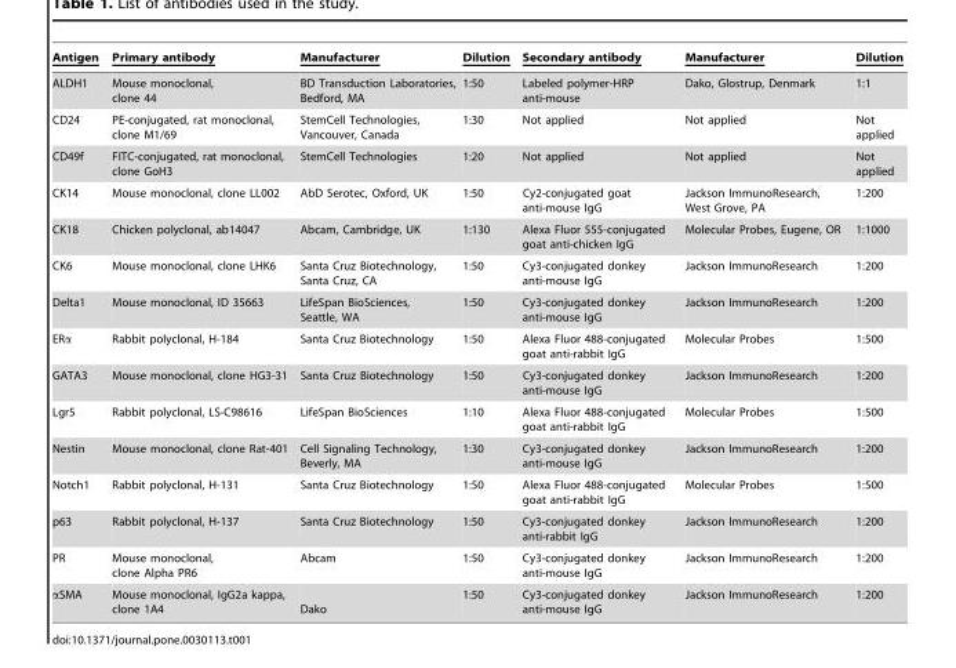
<table><thead><tr><td>Antigen</td><td>Primary antibody</td><td>Manufacturer</td><td>Dilution</td><td>Secondary antibody</td><td>Manufacturer</td><td>Dilution</td></tr></thead><tbody><tr><td>ALDH1</td><td>Mouse monoclonal, clone 44</td><td>BD Transduction Laboratories, Bedford, MA</td><td>1:50</td><td>Labeled polymer-HRP anti-mouse</td><td>Dako, Glostrup, Denmark</td><td>1:1</td></tr><tr><td>CD24</td><td>PE-conjugated, rat monoclonal, clone M1/69</td><td>StemCell Technologies, Vancouver, Canada</td><td>1:30</td><td>Not applied</td><td>Not applied</td><td>Not applied</td></tr><tr><td>CD49f</td><td>FITC-conjugated, rat monoclonal, clone GoH3</td><td>StemCell Technologies</td><td>1:20</td><td>Not applied</td><td>Not applied</td><td>Not applied</td></tr><tr><td>CK14</td><td>Mouse monoclonal, clone LL002</td><td>AbD Serotec, Oxford, UK</td><td>1:50</td><td>Cy2-conjugated goat anti-mouse IgG</td><td>Jackson ImmunoResearch, West Grove, PA</td><td>1:200</td></tr><tr><td>CK18</td><td>Chicken polyclonal, ab14047</td><td>Abcam, Cambridge, UK</td><td>1:130</td><td>Alexa Fluor 555-conjugated goat anti-chicken IgG</td><td>Molecular Probes, Eugene, OR</td><td>1:1000</td></tr><tr><td>CK6</td><td>Mouse monoclonal, clone LHK6</td><td>Santa Cruz Biotechnology, Santa Cruz, CA</td><td>1:50</td><td>Cy3-conjugated donkey anti-mouse IgG</td><td>Jackson ImmunoResearch</td><td>1:200</td></tr><tr><td>Delta1</td><td>Mouse monoclonal, ID 35663</td><td>LifeSpan BioSciences, Seattle, WA</td><td>1:50</td><td>Cy3-conjugated donkey anti-mouse IgG</td><td>Jackson ImmunoResearch</td><td>1:200</td></tr><tr><td>ERα</td><td>Rabbit polyclonal, H-184</td><td>Santa Cruz Biotechnology</td><td>1:50</td><td>Alexa Fluor 488-conjugated goat anti-rabbit IgG</td><td>Molecular Probes</td><td>1:500</td></tr><tr><td>GATA3</td><td>Mouse monoclonal, clone HG3-31</td><td>Santa Cruz Biotechnology</td><td>1:50</td><td>Cy3-conjugated donkey anti-mouse IgG</td><td>Jackson ImmunoResearch</td><td>1:200</td></tr><tr><td>Lgr5</td><td>Rabbit polyclonal, LS-C98616</td><td>LifeSpan BioSciences</td><td>1:10</td><td>Alexa Fluor 488-conjugated goat anti-rabbit IgG</td><td>Molecular Probes</td><td>1:500</td></tr><tr><td>Nestin</td><td>Mouse monoclonal, clone Rat-401</td><td>Cell Signaling Technology, Beverly, MA</td><td>1:30</td><td>Cy3-conjugated donkey anti-mouse IgG</td><td>Jackson ImmunoResearch</td><td>1:200</td></tr><tr><td>Notch1</td><td>Rabbit polyclonal, H-131</td><td>Santa Cruz Biotechnology</td><td>1:50</td><td>Alexa Fluor 488-conjugated goat anti-rabbit IgG</td><td>Molecular Probes</td><td>1:500</td></tr><tr><td>p63</td><td>Rabbit polyclonal, H-137</td><td>Santa Cruz Biotechnology</td><td>1:50</td><td>Cy3-conjugated donkey anti-rabbit IgG</td><td>Jackson ImmunoResearch</td><td>1:200</td></tr><tr><td>PR</td><td>Mouse monoclonal, clone Alpha PR6</td><td>Abcam</td><td>1:50</td><td>Cy3-conjugated donkey anti-mouse IgG</td><td>Jackson ImmunoResearch</td><td>1:200</td></tr><tr><td>αSMA</td><td>Mouse monoclonal, IgG2a kappa, clone 1A4</td><td>Dako</td><td>1:50</td><td>Cy3-conjugated donkey anti-mouse IgG</td><td>Jackson ImmunoResearch</td><td>1:200</td></tr></tbody></table>